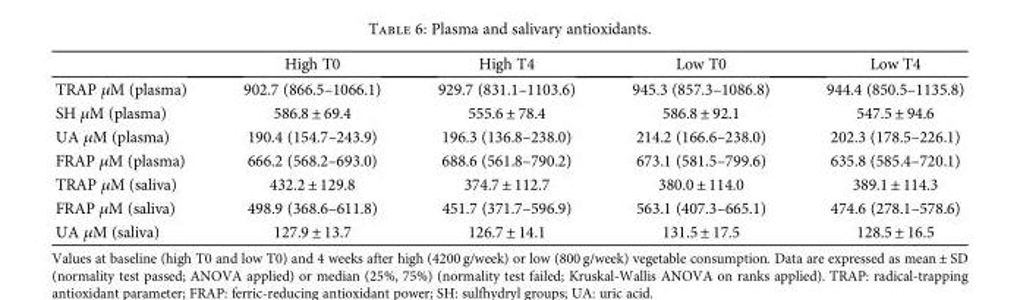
<table><thead><tr><td></td><td>High T0</td><td>High T4</td><td>Low T0</td><td>Low T4</td></tr></thead><tbody><tr><td>TRAP μM (plasma)</td><td>902.7 (866.5–1066.1)</td><td>929.7 (831.1–1103.6)</td><td>945.3 (857.3–1086.8)</td><td>944.4 (850.5–1135.8)</td></tr><tr><td>SH μM (plasma)</td><td>586.8 ± 69.4</td><td>555.6 ± 78.4</td><td>586.8 ± 92.1</td><td>547.5 ± 94.6</td></tr><tr><td>UA μM (plasma)</td><td>190.4 (154.7–243.9)</td><td>196.3 (136.8–238.0)</td><td>214.2 (166.6–238.0)</td><td>202.3 (178.5–226.1)</td></tr><tr><td>FRAP μM (plasma)</td><td>666.2 (568.2–693.0)</td><td>688.6 (561.8–790.2)</td><td>673.1 (581.5–799.6)</td><td>635.8 (585.4–720.1)</td></tr><tr><td>TRAP μM (saliva)</td><td>432.2 ± 129.8</td><td>374.7 ± 112.7</td><td>380.0 ± 114.0</td><td>389.1 ± 114.3</td></tr><tr><td>FRAP μM (saliva)</td><td>498.9 (368.6–611.8)</td><td>451.7 (371.7–596.9)</td><td>563.1 (407.3–665.1)</td><td>474.6 (278.1–578.6)</td></tr><tr><td>UA μM (saliva)</td><td>127.9 ± 13.7</td><td>126.7 ± 14.1</td><td>131.5 ± 17.5</td><td>128.5 ± 16.5</td></tr></tbody></table>